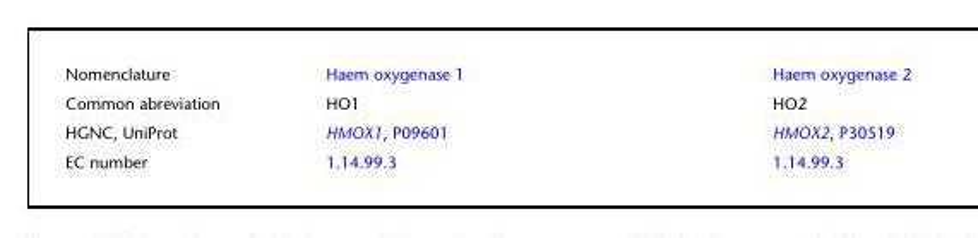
<table><tbody><tr><td>Nomenclature</td><td>Haem oxygenase 1</td><td>Haem oxygenase 2</td></tr><tr><td>Common abreviation</td><td>HO1</td><td>HO2</td></tr><tr><td>HGNC, UniProt</td><td>HMOX1, P09601</td><td>HMOX2, P30519</td></tr><tr><td>EC number</td><td>1.14.99.3</td><td>1.14.99.3</td></tr></tbody></table>